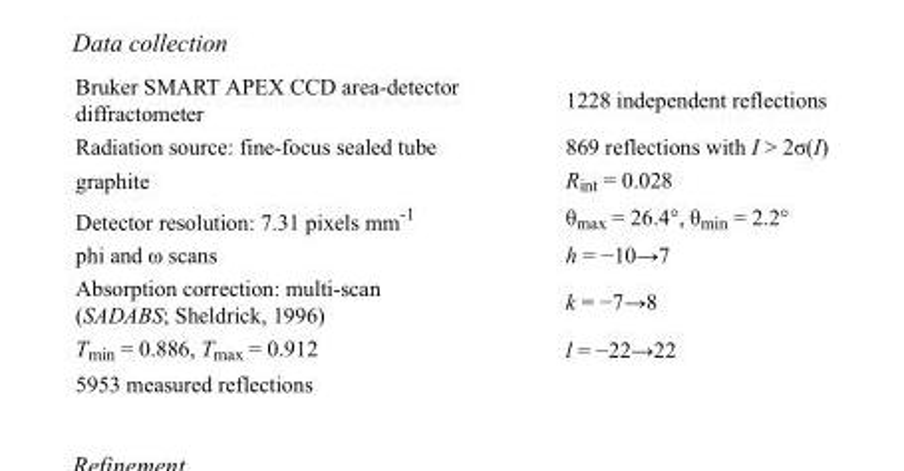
<table><tbody><tr><td>Bruker SMART APEX CCD area-detector diffractometer</td><td>1228 independent reflections</td></tr><tr><td>Radiation source: fine-focus sealed tube</td><td>869 reflections with I &gt; 2σ(I)</td></tr><tr><td>graphite</td><td>R<sub>int</sub> = 0.028</td></tr><tr><td>Detector resolution: 7.31 pixels mm<sup>-1</sup></td><td>θ<sub>max</sub> = 26.4°, θ<sub>min</sub> = 2.2°</td></tr><tr><td>phi and ω scans</td><td>h = −10→7</td></tr><tr><td>Absorption correction: multi-scan (SADABS; Sheldrick, 1996)</td><td>k = −7→8</td></tr><tr><td>T<sub>min</sub> = 0.886, T<sub>max</sub> = 0.912</td><td>l = −22→22</td></tr><tr><td>5953 measured reflections</td><td></td></tr></tbody></table>